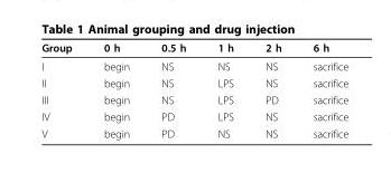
<table><thead><tr><td>Group</td><td>0 h</td><td>0.5 h</td><td>1 h</td><td>2 h</td><td>6 h</td></tr></thead><tbody><tr><td>I</td><td>begin</td><td>NS</td><td>NS</td><td>NS</td><td>sacrifice</td></tr><tr><td>II</td><td>begin</td><td>NS</td><td>LPS</td><td>NS</td><td>sacrifice</td></tr><tr><td>III</td><td>begin</td><td>NS</td><td>LPS</td><td>PD</td><td>sacrifice</td></tr><tr><td>IV</td><td>begin</td><td>PD</td><td>LPS</td><td>NS</td><td>sacrifice</td></tr><tr><td>V</td><td>begin</td><td>PD</td><td>NS</td><td>NS</td><td>sacrifice</td></tr></tbody></table>